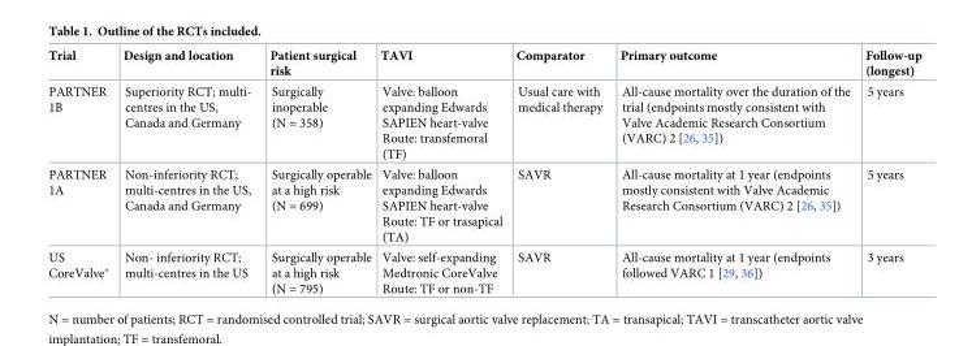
<table><thead><tr><td>Trial</td><td>Design and location</td><td>Patient surgical risk</td><td>TAVI</td><td>Comparator</td><td>Primary outcome</td><td>Follow-up (longest)</td></tr></thead><tbody><tr><td>PARTNER 1B</td><td>Superiority RCT; multi- centres in the US, Canada and Germany</td><td>Surgically inoperable (N = 358)</td><td>Valve: balloon expanding Edwards SAPIEN heart-valve Route: transfemoral (TF)</td><td>Usual care with medical therapy</td><td>All-cause mortality over the duration of the trial (endpoints mostly consistent with Valve Academic Research Consortium (VARC) 2 [26, 35])</td><td>5 years</td></tr><tr><td>PARTNER 1A</td><td>Non-inferiority RCT; multi-centres in the US, Canada and Germany</td><td>Surgically operable at a high risk (N = 699)</td><td>Valve: balloon expanding Edwards SAPIEN heart-valve Route: TF or trasapical (TA)</td><td>SAVR</td><td>All-cause mortality at 1 year (endpoints mostly consistent with Valve Academic Research Consortium (VARC) 2 [26, 35])</td><td>5 years</td></tr><tr><td>US CoreValve*</td><td>Non- inferiority RCT; multi-centres in the US</td><td>Surgically operable at a high risk (N = 795)</td><td>Valve: self-expanding Medtronic CoreValve Route: TF or non-TF</td><td>SAVR</td><td>All-cause mortality at 1 year (endpoints followed VARC 1 [29, 36])</td><td>3 years</td></tr></tbody></table>